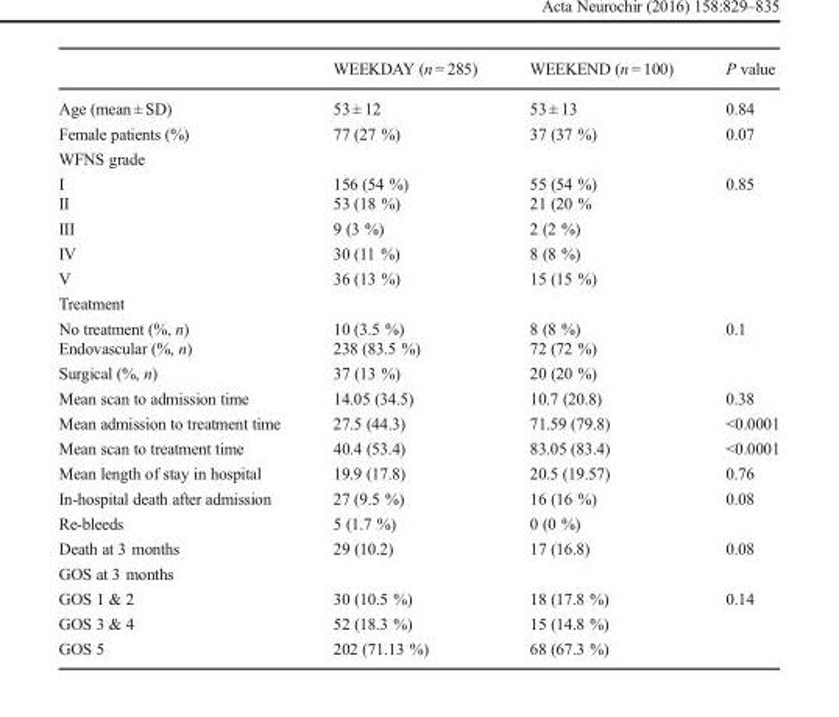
<table><thead><tr><td></td><td>WEEKDAY (n = 285)</td><td>WEEKEND (n = 100)</td><td>P value</td></tr></thead><tbody><tr><td>Age (mean ± SD)</td><td>53 ± 12</td><td>53 ± 13</td><td>0.84</td></tr><tr><td>Female patients (%)</td><td>77 (27 %)</td><td>37 (37 %)</td><td>0.07</td></tr><tr><td colspan="4">WFNS grade</td></tr><tr><td>I</td><td>156 (54 %)</td><td>55 (54 %)</td><td rowspan="5">0.85</td></tr><tr><td>II</td><td>53 (18 %)</td><td>21 (20 %</td></tr><tr><td>III</td><td>9 (3 %)</td><td>2 (2 %)</td></tr><tr><td>IV</td><td>30 (11 %)</td><td>8 (8 %)</td></tr><tr><td>V</td><td>36 (13 %)</td><td>15 (15 %)</td></tr><tr><td colspan="4">Treatment</td></tr><tr><td>No treatment (%, n)</td><td>10 (3.5 %)</td><td>8 (8 %)</td><td rowspan="3">0.1</td></tr><tr><td>Endovascular (%, n)</td><td>238 (83.5 %)</td><td>72 (72 %)</td></tr><tr><td>Surgical (%, n)</td><td>37 (13 %)</td><td>20 (20 %)</td></tr><tr><td>Mean scan to admission time</td><td>14.05 (34.5)</td><td>10.7 (20.8)</td><td>0.38</td></tr><tr><td>Mean admission to treatment time</td><td>27.5 (44.3)</td><td>71.59 (79.8)</td><td>&lt;0.0001</td></tr><tr><td>Mean scan to treatment time</td><td>40.4 (53.4)</td><td>83.05 (83.4)</td><td>&lt;0.0001</td></tr><tr><td>Mean length of stay in hospital</td><td>19.9 (17.8)</td><td>20.5 (19.57)</td><td>0.76</td></tr><tr><td>In-hospital death after admission</td><td>27 (9.5 %)</td><td>16 (16 %)</td><td>0.08</td></tr><tr><td>Re-bleeds</td><td>5 (1.7 %)</td><td>0 (0 %)</td><td></td></tr><tr><td>Death at 3 months</td><td>29 (10.2)</td><td>17 (16.8)</td><td>0.08</td></tr><tr><td colspan="4">GOS at 3 months</td></tr><tr><td>GOS 1 &amp; 2</td><td>30 (10.5 %)</td><td>18 (17.8 %)</td><td>0.14</td></tr><tr><td>GOS 3 &amp; 4</td><td>52 (18.3 %)</td><td>15 (14.8 %)</td><td></td></tr><tr><td>GOS 5</td><td>202 (71.13 %)</td><td>68 (67.3 %)</td><td></td></tr></tbody></table>